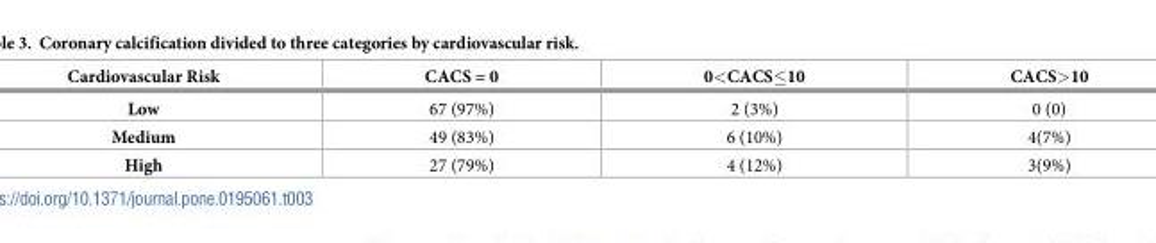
<table><thead><tr><td>Cardiovascular Risk</td><td>CACS = 0</td><td>0&lt;CACS≤10</td><td>CACS&gt;10</td></tr></thead><tbody><tr><td>Low</td><td>67 (97%)</td><td>2 (3%)</td><td>0 (0)</td></tr><tr><td>Medium</td><td>49 (83%)</td><td>6 (10%)</td><td>4(7%)</td></tr><tr><td>High</td><td>27 (79%)</td><td>4 (12%)</td><td>3(9%)</td></tr></tbody></table>